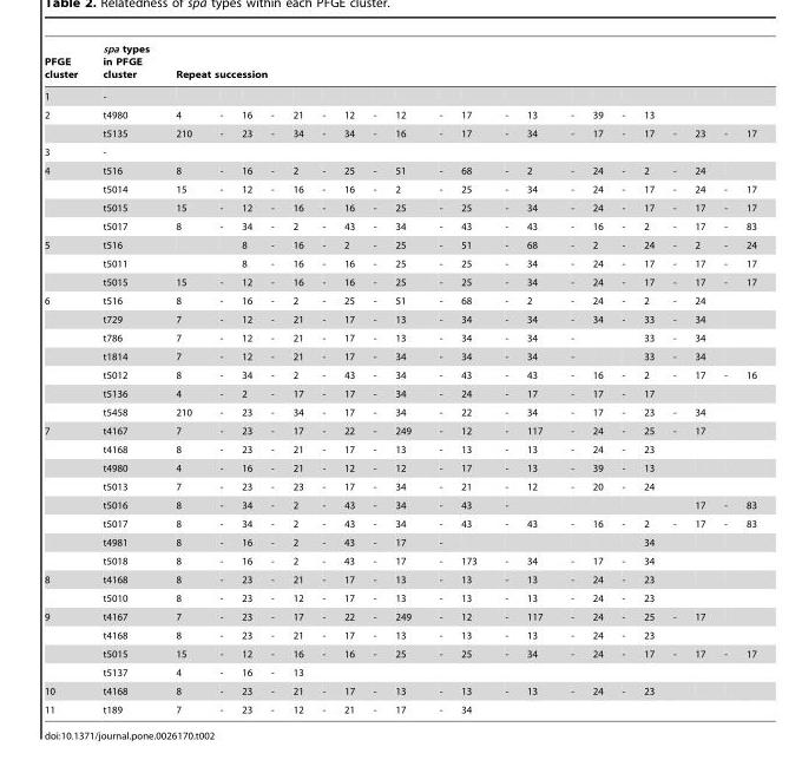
<table><thead><tr><td rowspan="2">PFGE cluster 1</td><td rowspan="2">spa types in PFGE cluster -</td><td colspan="21">Repeat succession</td></tr><tr><td></td><td></td><td></td><td></td><td></td><td></td><td></td><td></td><td></td><td></td><td></td><td></td><td></td><td></td><td></td><td></td><td></td><td></td><td></td><td></td><td></td></tr></thead><tbody><tr><td rowspan="2">2</td><td>t4980</td><td>4</td><td>-</td><td>16</td><td>-</td><td>21</td><td>-</td><td>12</td><td>-</td><td>12</td><td>-</td><td>17</td><td>-</td><td>13</td><td>-</td><td>39</td><td>-</td><td>13</td><td></td><td></td><td></td><td></td></tr><tr><td>t5135</td><td>210</td><td>-</td><td>23</td><td>-</td><td>34</td><td>-</td><td>34</td><td>-</td><td>16</td><td>-</td><td>17</td><td>-</td><td>34</td><td>-</td><td>17</td><td>-</td><td>17</td><td>-</td><td>23</td><td>-</td><td>17</td></tr><tr><td>3</td><td>-</td><td></td><td></td><td></td><td></td><td></td><td></td><td></td><td></td><td></td><td></td><td></td><td></td><td></td><td></td><td></td><td></td><td></td><td></td><td></td><td></td><td></td></tr><tr><td rowspan="4">4</td><td>t516</td><td>8</td><td>-</td><td>16</td><td>-</td><td>2</td><td>-</td><td>25</td><td>-</td><td>51</td><td>-</td><td>68</td><td>-</td><td>2</td><td>-</td><td>24</td><td>-</td><td>2</td><td>-</td><td>24</td><td></td><td></td></tr><tr><td>t5014</td><td>15</td><td>-</td><td>12</td><td>-</td><td>16</td><td>-</td><td>16</td><td>-</td><td>2</td><td>-</td><td>25</td><td>-</td><td>34</td><td>-</td><td>24</td><td>-</td><td>17</td><td>-</td><td>24</td><td>-</td><td>17</td></tr><tr><td>t5015</td><td>15</td><td>-</td><td>12</td><td>-</td><td>16</td><td>-</td><td>16</td><td>-</td><td>25</td><td>-</td><td>25</td><td>-</td><td>34</td><td>-</td><td>24</td><td>-</td><td>17</td><td>-</td><td>17</td><td>-</td><td>17</td></tr><tr><td>t5017</td><td>8</td><td>-</td><td>34</td><td>-</td><td>2</td><td>-</td><td>43</td><td>-</td><td>34</td><td>-</td><td>43</td><td>-</td><td>43</td><td>-</td><td>16</td><td>-</td><td>2</td><td>-</td><td>17</td><td>-</td><td>83</td></tr><tr><td rowspan="3">5</td><td>t516</td><td></td><td></td><td>8</td><td>-</td><td>16</td><td>-</td><td>2</td><td>-</td><td>25</td><td>-</td><td>51</td><td>-</td><td>68</td><td>-</td><td>2</td><td>-</td><td>24</td><td>-</td><td>2</td><td>-</td><td>24</td></tr><tr><td>t5011</td><td></td><td></td><td>8</td><td>-</td><td>16</td><td>-</td><td>16</td><td>-</td><td>25</td><td>-</td><td>25</td><td>-</td><td>34</td><td>-</td><td>24</td><td>-</td><td>17</td><td>-</td><td>17</td><td>-</td><td>17</td></tr><tr><td>t5015</td><td>15</td><td>-</td><td>12</td><td>-</td><td>16</td><td>-</td><td>16</td><td>-</td><td>25</td><td>-</td><td>25</td><td>-</td><td>34</td><td>-</td><td>24</td><td>-</td><td>17</td><td>-</td><td>17</td><td>-</td><td>17</td></tr><tr><td rowspan="7">6</td><td>t516</td><td>8</td><td>-</td><td>16</td><td>-</td><td>2</td><td>-</td><td>25</td><td>-</td><td>51</td><td>-</td><td>68</td><td>-</td><td>2</td><td>-</td><td>24</td><td>-</td><td>2</td><td>-</td><td>24</td><td></td><td></td></tr><tr><td>t729</td><td>7</td><td>-</td><td>12</td><td>-</td><td>21</td><td>-</td><td>17</td><td>-</td><td>13</td><td>-</td><td>34</td><td>-</td><td>34</td><td>-</td><td>34</td><td>-</td><td>33</td><td>-</td><td>34</td><td></td><td></td></tr><tr><td>t786</td><td>7</td><td>-</td><td>12</td><td>-</td><td>21</td><td>-</td><td>17</td><td>-</td><td>13</td><td>-</td><td>34</td><td>-</td><td>34</td><td>-</td><td></td><td></td><td>33</td><td>-</td><td>34</td><td></td><td></td></tr><tr><td>t1814</td><td>7</td><td>-</td><td>12</td><td>-</td><td>21</td><td>-</td><td>17</td><td>-</td><td>34</td><td>-</td><td>34</td><td>-</td><td>34</td><td>-</td><td></td><td></td><td>33</td><td>-</td><td>34</td><td></td><td></td></tr><tr><td>t5012</td><td>8</td><td>-</td><td>34</td><td>-</td><td>2</td><td>-</td><td>43</td><td>-</td><td>34</td><td>-</td><td>43</td><td>-</td><td>43</td><td>-</td><td>16</td><td>-</td><td>2</td><td>-</td><td>17</td><td>-</td><td>16</td></tr><tr><td>t5136</td><td>4</td><td>-</td><td>2</td><td>-</td><td>17</td><td>-</td><td>17</td><td>-</td><td>34</td><td>-</td><td>24</td><td>-</td><td>17</td><td>-</td><td>17</td><td>-</td><td>17</td><td></td><td></td><td></td><td></td></tr><tr><td>t5458</td><td>210</td><td>-</td><td>23</td><td>-</td><td>34</td><td>-</td><td>17</td><td>-</td><td>34</td><td>-</td><td>22</td><td>-</td><td>34</td><td>-</td><td>17</td><td>-</td><td>23</td><td>-</td><td>34</td><td></td><td></td></tr><tr><td rowspan="8">7</td><td>t4167</td><td>7</td><td>-</td><td>23</td><td>-</td><td>17</td><td>-</td><td>22</td><td>-</td><td>249</td><td>-</td><td>12</td><td>-</td><td>117</td><td>-</td><td>24</td><td>-</td><td>25</td><td>-</td><td>17</td><td></td><td></td></tr><tr><td>t4168</td><td>8</td><td>-</td><td>23</td><td>-</td><td>21</td><td>-</td><td>17</td><td>-</td><td>13</td><td>-</td><td>13</td><td>-</td><td>13</td><td>-</td><td>24</td><td>-</td><td>23</td><td></td><td></td><td></td><td></td></tr><tr><td>t4980</td><td>4</td><td>-</td><td>16</td><td>-</td><td>21</td><td>-</td><td>12</td><td>-</td><td>12</td><td>-</td><td>17</td><td>-</td><td>13</td><td>-</td><td>39</td><td>-</td><td>13</td><td></td><td></td><td></td><td></td></tr><tr><td>t5013</td><td>7</td><td>-</td><td>23</td><td>-</td><td>23</td><td>-</td><td>17</td><td>-</td><td>34</td><td>-</td><td>21</td><td>-</td><td>12</td><td>-</td><td>20</td><td>-</td><td>24</td><td></td><td></td><td></td><td></td></tr><tr><td>t5016</td><td>8</td><td>-</td><td>34</td><td>-</td><td>2</td><td>-</td><td>43</td><td>-</td><td>34</td><td>-</td><td>43</td><td>-</td><td></td><td></td><td></td><td></td><td></td><td></td><td>17</td><td>-</td><td>83</td></tr><tr><td>t5017</td><td>8</td><td>-</td><td>34</td><td>-</td><td>2</td><td>-</td><td>43</td><td>-</td><td>34</td><td>-</td><td>43</td><td>-</td><td>43</td><td>-</td><td>16</td><td>-</td><td>2</td><td>-</td><td>17</td><td>-</td><td>83</td></tr><tr><td>t4981</td><td>8</td><td>-</td><td>16</td><td>-</td><td>2</td><td>-</td><td>43</td><td>-</td><td>17</td><td>-</td><td></td><td></td><td></td><td></td><td></td><td></td><td>34</td><td></td><td></td><td></td><td></td></tr><tr><td>t5018</td><td>8</td><td>-</td><td>16</td><td>-</td><td>2</td><td>-</td><td>43</td><td>-</td><td>17</td><td>-</td><td>173</td><td>-</td><td>34</td><td>-</td><td>17</td><td>-</td><td>34</td><td></td><td></td><td></td><td></td></tr><tr><td rowspan="2">8</td><td>t4168</td><td>8</td><td>-</td><td>23</td><td>-</td><td>21</td><td>-</td><td>17</td><td>-</td><td>13</td><td>-</td><td>13</td><td>-</td><td>13</td><td>-</td><td>24</td><td>-</td><td>23</td><td></td><td></td><td></td><td></td></tr><tr><td>t5010</td><td>8</td><td>-</td><td>23</td><td>-</td><td>12</td><td>-</td><td>17</td><td>-</td><td>13</td><td>-</td><td>13</td><td>-</td><td>13</td><td>-</td><td>24</td><td>-</td><td>23</td><td></td><td></td><td></td><td></td></tr><tr><td rowspan="4">9</td><td>t4167</td><td>7</td><td>-</td><td>23</td><td>-</td><td>17</td><td>-</td><td>22</td><td>-</td><td>249</td><td>-</td><td>12</td><td>-</td><td>117</td><td>-</td><td>24</td><td>-</td><td>25</td><td>-</td><td>17</td><td></td><td></td></tr><tr><td>t4168</td><td>8</td><td>-</td><td>23</td><td>-</td><td>21</td><td>-</td><td>17</td><td>-</td><td>13</td><td>-</td><td>13</td><td>-</td><td>13</td><td>-</td><td>24</td><td>-</td><td>23</td><td></td><td></td><td></td><td></td></tr><tr><td>t5015</td><td>15</td><td>-</td><td>12</td><td>-</td><td>16</td><td>-</td><td>16</td><td>-</td><td>25</td><td>-</td><td>25</td><td>-</td><td>34</td><td>-</td><td>24</td><td>-</td><td>17</td><td>-</td><td>17</td><td>-</td><td>17</td></tr><tr><td>t5137</td><td>4</td><td>-</td><td>16</td><td>-</td><td>13</td><td></td><td></td><td></td><td></td><td></td><td></td><td></td><td></td><td></td><td></td><td></td><td></td><td></td><td></td><td></td><td></td></tr><tr><td>10</td><td>t4168</td><td>8</td><td>-</td><td>23</td><td>-</td><td>21</td><td>-</td><td>17</td><td>-</td><td>13</td><td>-</td><td>13</td><td>-</td><td>13</td><td>-</td><td>24</td><td>-</td><td>23</td><td></td><td></td><td></td><td></td></tr><tr><td>11</td><td>t189</td><td>7</td><td>-</td><td>23</td><td>-</td><td>12</td><td>-</td><td>21</td><td>-</td><td>17</td><td>-</td><td>34</td><td></td><td></td><td></td><td></td><td></td><td></td><td></td><td></td><td></td><td></td></tr></tbody></table>